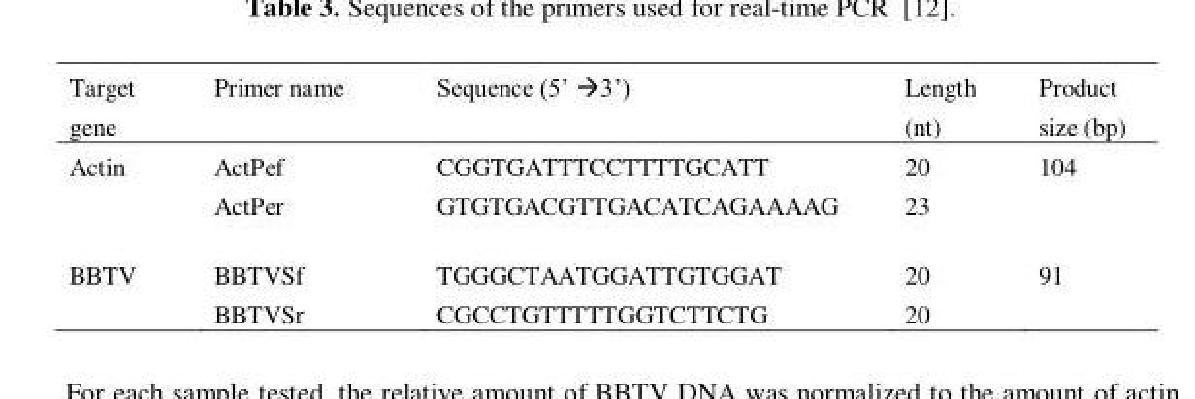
<table><thead><tr><td>Target gene</td><td>Primer name</td><td>Sequence (5’ à3’)</td><td>Length (nt)</td><td>Product size (bp)</td></tr></thead><tbody><tr><td rowspan="2">Actin</td><td>ActPef</td><td>CGGTGATTTCCTTTTGCATT</td><td>20</td><td>104</td></tr><tr><td>ActPer</td><td>GTGTGACGTTGACATCAGAAAAG</td><td>23</td><td></td></tr><tr><td rowspan="2">BBTV</td><td>BBTVSf</td><td>TGGGCTAATGGATTGTGGAT</td><td>20</td><td>91</td></tr><tr><td>BBTVSr</td><td>CGCCTGTTTTTGGTCTTCTG</td><td>20</td><td></td></tr></tbody></table>